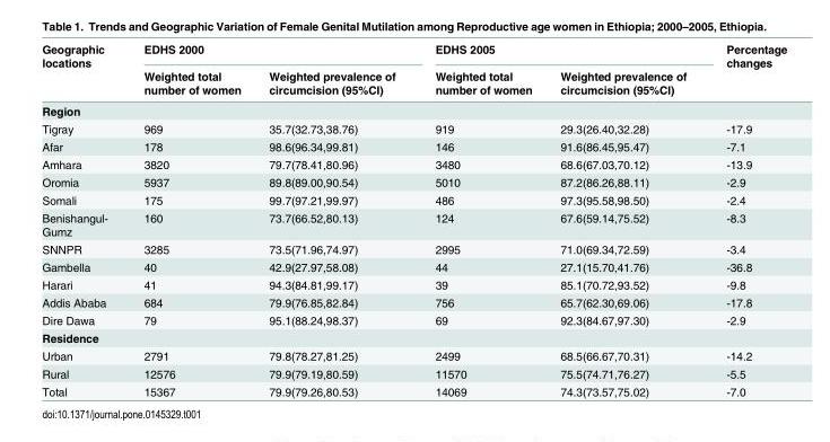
<table><thead><tr><td rowspan="2">Geographic locations</td><td colspan="2">EDHS 2000</td><td colspan="2">EDHS 2005</td><td rowspan="2">Percentage changes</td></tr><tr><td>Weighted total number of women</td><td>Weighted prevalence of circumcision (95%CI)</td><td>Weighted total number of women</td><td>Weighted prevalence of circumcision (95%CI)</td></tr></thead><tbody><tr><td colspan="6">Region</td></tr><tr><td>Tigray</td><td>969</td><td>35.7(32.73,38.76)</td><td>919</td><td>29.3(26.40,32.28)</td><td>-17.9</td></tr><tr><td>Afar</td><td>178</td><td>98.6(96.34,99.81)</td><td>146</td><td>91.6(86.45,95.47)</td><td>-7.1</td></tr><tr><td>Amhara</td><td>3820</td><td>79.7(78.41,80.96)</td><td>3480</td><td>68.6(67.03,70.12)</td><td>-13.9</td></tr><tr><td>Oromia</td><td>5937</td><td>89.8(89.00,90.54)</td><td>5010</td><td>87.2(86.26,88.11)</td><td>-2.9</td></tr><tr><td>Somali</td><td>175</td><td>99.7(97.21,99.97)</td><td>486</td><td>97.3(95.58,98.50)</td><td>-2.4</td></tr><tr><td>Benishangul- Gumz</td><td>160</td><td>73.7(66.52,80.13)</td><td>124</td><td>67.6(59.14,75.52)</td><td>-8.3</td></tr><tr><td>SNNPR</td><td>3285</td><td>73.5(71.96,74.97)</td><td>2995</td><td>71.0(69.34,72.59)</td><td>-3.4</td></tr><tr><td>Gambella</td><td>40</td><td>42.9(27.97,58.08)</td><td>44</td><td>27.1(15.70,41.76)</td><td>-36.8</td></tr><tr><td>Harari</td><td>41</td><td>94.3(84.81,99.17)</td><td>39</td><td>85.1(70.72,93.52)</td><td>-9.8</td></tr><tr><td>Addis Ababa</td><td>684</td><td>79.9(76.85,82.84)</td><td>756</td><td>65.7(62.30,69.06)</td><td>-17.8</td></tr><tr><td>Dire Dawa</td><td>79</td><td>95.1(88.24,98.37)</td><td>69</td><td>92.3(84.67,97.30)</td><td>-2.9</td></tr><tr><td colspan="6">Residence</td></tr><tr><td>Urban</td><td>2791</td><td>79.8(78.27,81.25)</td><td>2499</td><td>68.5(66.67,70.31)</td><td>-14.2</td></tr><tr><td>Rural</td><td>12576</td><td>79.9(79.19,80.59)</td><td>11570</td><td>75.5(74.71,76.27)</td><td>-5.5</td></tr><tr><td>Total</td><td>15367</td><td>79.9(79.26,80.53)</td><td>14069</td><td>74.3(73.57,75.02)</td><td>-7.0</td></tr></tbody></table>